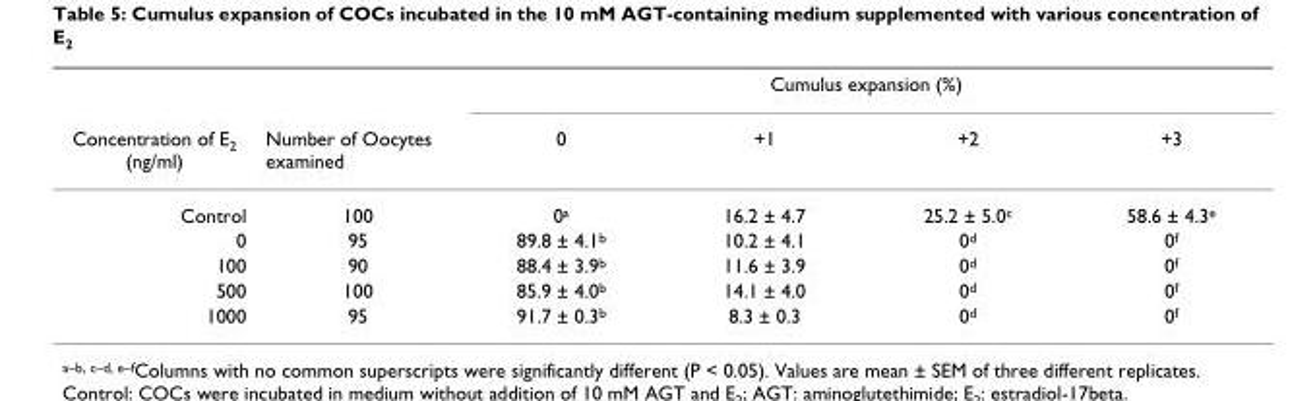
<table><thead><tr><td rowspan="2">Concentration of E<sub>2</sub> (ng/ml)</td><td rowspan="2">Number of Oocytes examined</td><td colspan="4">Cumulus expansion (%)</td></tr><tr><td>0</td><td>+1</td><td>+2</td><td>+3</td></tr></thead><tbody><tr><td>Control</td><td>100</td><td>0<sup>a</sup></td><td>16.2 ± 4.7</td><td>25.2 ± 5.0<sup>c</sup></td><td>58.6 ± 4.3<sup>e</sup></td></tr><tr><td>0</td><td>95</td><td>89.8 ± 4.1<sup>b</sup></td><td>10.2 ± 4.1</td><td>0<sup>d</sup></td><td>0<sup>f</sup></td></tr><tr><td>100</td><td>90</td><td>88.4 ± 3.9<sup>b</sup></td><td>11.6 ± 3.9</td><td>0<sup>d</sup></td><td>0<sup>f</sup></td></tr><tr><td>500</td><td>100</td><td>85.9 ± 4.0<sup>b</sup></td><td>14.1 ± 4.0</td><td>0<sup>d</sup></td><td>0<sup>f</sup></td></tr><tr><td>1000</td><td>95</td><td>91.7 ± 0.3<sup>b</sup></td><td>8.3 ± 0.3</td><td>0<sup>d</sup></td><td>0<sup>f</sup></td></tr></tbody></table>